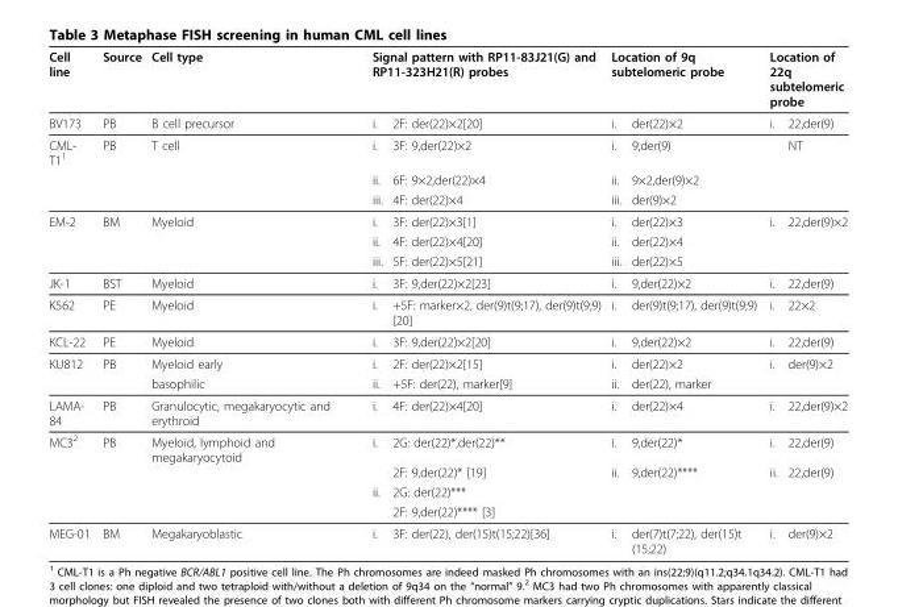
<table><thead><tr><td rowspan="2">Cell line BV173</td><td rowspan="2">Source PB</td><td rowspan="2">Cell type B cell precursor</td><td colspan="2">Signal pattern with RP11-83J21(G) and RP11-323H21(R) probes</td><td colspan="2">Location of 9q subtelomeric probe</td><td colspan="2">Location of 22q subtelomeric probe</td></tr><tr><td>i.</td><td>2F: der(22)×2[20]</td><td>i.</td><td>der(22)×2</td><td>i.</td><td>22,der(9)</td></tr></thead><tbody><tr><td rowspan="3">CML- T1<sup>1</sup></td><td>PB</td><td>T cell</td><td>i.</td><td>3F: 9,der(22)×2</td><td>i.</td><td>9,der(9)</td><td></td><td>NT</td></tr><tr><td></td><td></td><td>ii.</td><td>6F: 9×2,der(22)×4</td><td>ii.</td><td>9×2,der(9)×2</td><td></td><td></td></tr><tr><td></td><td></td><td>iii.</td><td>4F: der(22)×4</td><td>iii.</td><td>der(9)×2</td><td></td><td></td></tr><tr><td rowspan="3">EM-2</td><td>BM</td><td>Myeloid</td><td>i.</td><td>3F: der(22)×3[1]</td><td>i.</td><td>der(22)×3</td><td>i.</td><td>22,der(9)×2</td></tr><tr><td></td><td></td><td>ii.</td><td>4F: der(22)×4[20]</td><td>ii.</td><td>der(22)×4</td><td></td><td></td></tr><tr><td></td><td></td><td>iii.</td><td>5F: der(22)×5[21]</td><td>iii.</td><td>der(22)×5</td><td></td><td></td></tr><tr><td>JK-1</td><td>BST</td><td>Myeloid</td><td>i.</td><td>3F: 9,der(22)×2[23]</td><td>i.</td><td>9,der(22)×2</td><td>i.</td><td>22,der(9)</td></tr><tr><td>K562</td><td>PE</td><td>Myeloid</td><td>i.</td><td>+5F: marker×2, der(9)t(9;17), der(9)t(9;9) [20]</td><td>i.</td><td>der(9)t(9;17), der(9)t(9;9)</td><td>i.</td><td>22×2</td></tr><tr><td>KCL-22</td><td>PE</td><td>Myeloid</td><td>i.</td><td>3F: 9,der(22)×2[20]</td><td>i.</td><td>9,der(22)×2</td><td>i.</td><td>22,der(9)</td></tr><tr><td rowspan="2">KU812</td><td>PB</td><td>Myeloid early</td><td>i.</td><td>2F: der(22)×2[15]</td><td>i.</td><td>der(22)×2</td><td>i.</td><td>der(9)×2</td></tr><tr><td></td><td>basophilic</td><td>ii.</td><td>+5F: der(22), marker[9]</td><td>ii.</td><td>der(22), marker</td><td></td><td></td></tr><tr><td>LAMA- 84</td><td>PB</td><td>Granulocytic, megakaryocytic and erythroid</td><td>i.</td><td>4F: der(22)×4[20]</td><td>i.</td><td>der(22)×4</td><td>i.</td><td>22,der(9)×2</td></tr><tr><td rowspan="3">MC3<sup>2</sup></td><td>PB</td><td>Myeloid, lymphoid and megakaryocytoid</td><td>i.</td><td>2G: der(22)*,der(22)** 2F: 9,der(22)* [19]</td><td>i. ii.</td><td>9,der(22)* 9,der(22)****</td><td>i. ii.</td><td>22,der(9) 22,der(9)</td></tr><tr><td></td><td></td><td>ii.</td><td>2G: der(22)***</td><td></td><td></td><td></td><td></td></tr><tr><td></td><td></td><td></td><td>2F: 9,der(22)**** [3]</td><td></td><td></td><td></td><td></td></tr><tr><td>MEG-01</td><td>BM</td><td>Megakaryoblastic</td><td>i.</td><td>3F: der(22), der(15)t(15;22)[36]</td><td>i.</td><td>der(7)t(7;22), der(15)t (15;22)</td><td>i.</td><td>der(9)×2</td></tr></tbody></table>